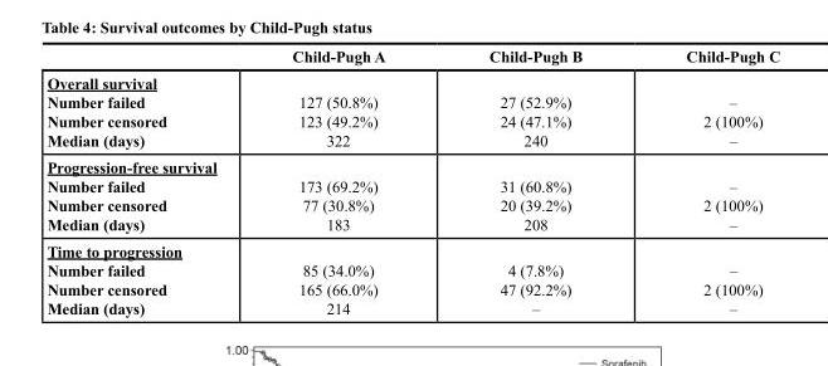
<table><thead><tr><td></td><td>Child-Pugh A</td><td>Child-Pugh B</td><td>Child-Pugh C</td></tr></thead><tbody><tr><td>Overall survival Number failed Number censored Median (days)</td><td>127 (50.8%) 123 (49.2%) 322</td><td>27 (52.9%) 24 (47.1%) 240</td><td>– 2 (100%) –</td></tr><tr><td>Progression-free survival Number failed Number censored Median (days)</td><td>173 (69.2%) 77 (30.8%) 183</td><td>31 (60.8%) 20 (39.2%) 208</td><td>– 2 (100%) –</td></tr><tr><td>Time to progression Number failed Number censored Median (days)</td><td>85 (34.0%) 165 (66.0%) 214</td><td>4 (7.8%) 47 (92.2%) –</td><td>– 2 (100%) –</td></tr></tbody></table>